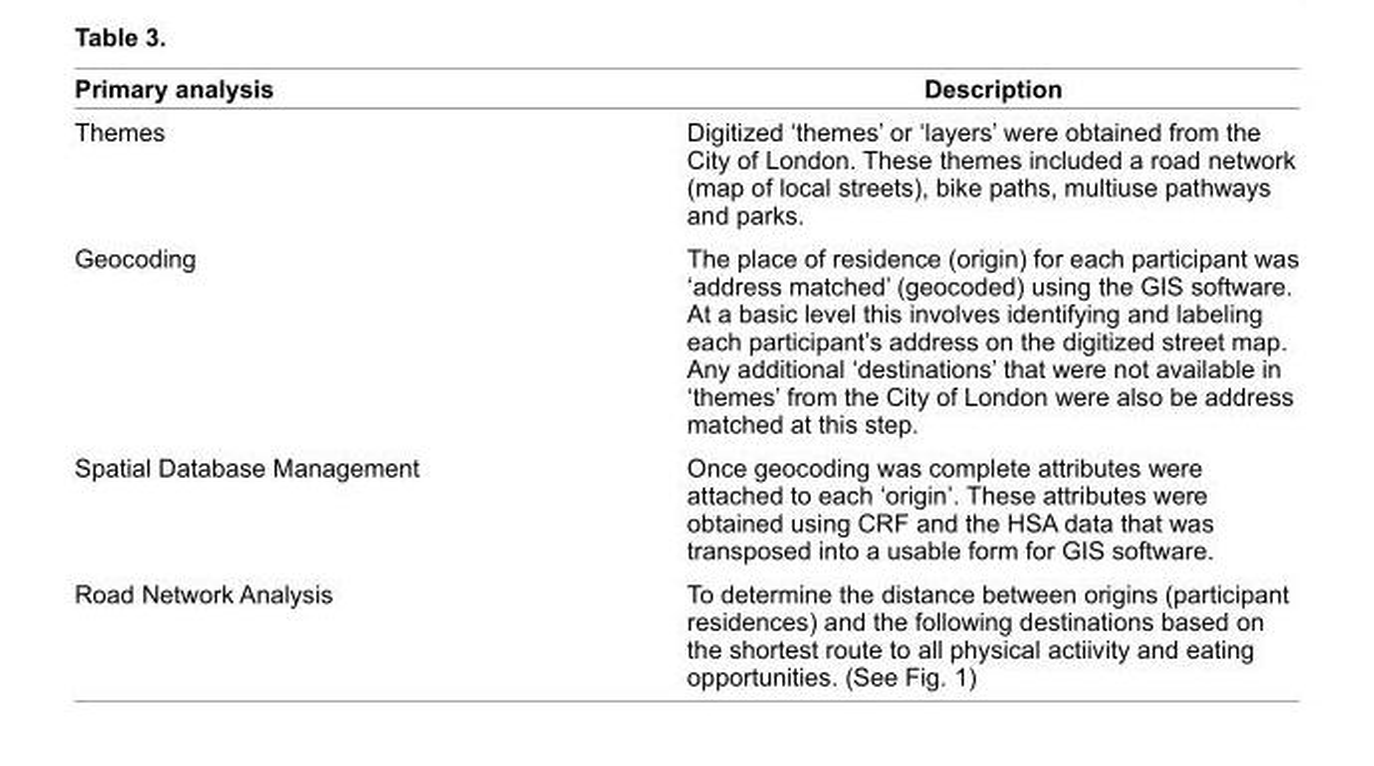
<table><thead><tr><td>Primary analysis</td><td>Description</td></tr></thead><tbody><tr><td>Themes</td><td>Digitized ‘themes’ or ‘layers’ were obtained from the City of London. These themes included a road network (map of local streets), bike paths, multiuse pathways and parks.</td></tr><tr><td>Geocoding</td><td>The place of residence (origin) for each participant was ‘address matched’ (geocoded) using the GIS software. At a basic level this involves identifying and labeling each participant’s address on the digitized street map. Any additional ‘destinations’ that were not available in ‘themes’ from the City of London were also be address matched at this step.</td></tr><tr><td>Spatial Database Management</td><td>Once geocoding was complete attributes were attached to each ‘origin’. These attributes were obtained using CRF and the HSA data that was transposed into a usable form for GIS software.</td></tr><tr><td>Road Network Analysis</td><td>To determine the distance between origins (participant residences) and the following destinations based on the shortest route to all physical actiivity and eating opportunities. (See Fig. 1)</td></tr></tbody></table>